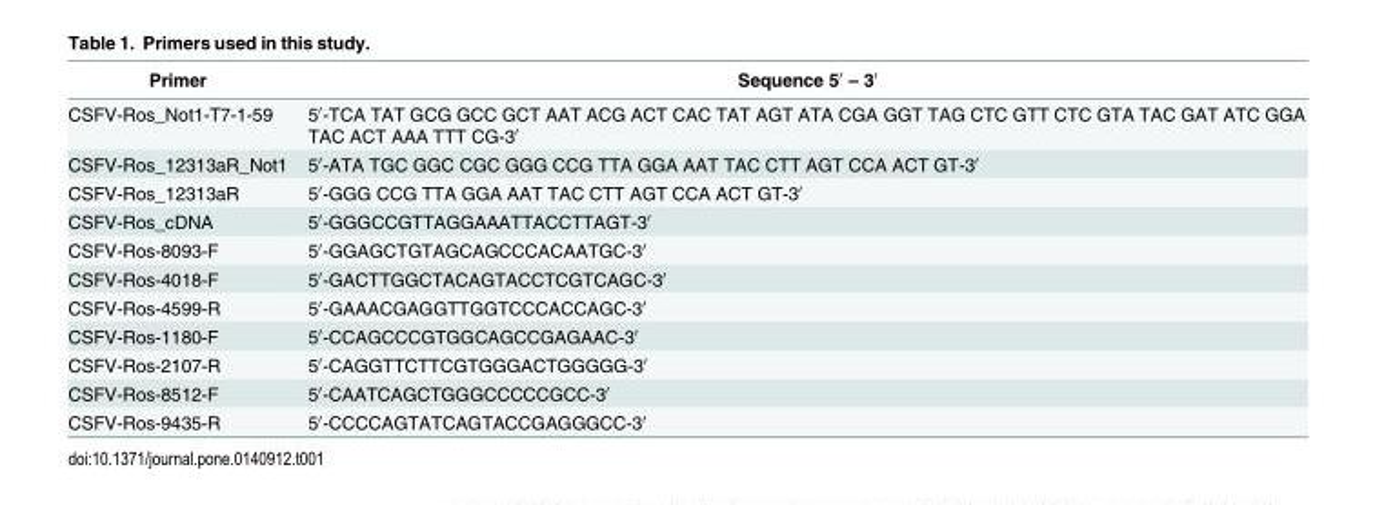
<table><thead><tr><td>Primer</td><td>Sequence 5′ – 3′</td></tr></thead><tbody><tr><td>CSFV-Ros_Not1-T7-1-59</td><td>5′-TCA TAT GCG GCC GCT AAT ACG ACT CAC TAT AGT ATA CGA GGT TAG CTC GTT CTC GTA TAC GAT ATC GGA TAC ACT AAA TTT CG-3′</td></tr><tr><td>CSFV-Ros_12313aR_Not1</td><td>5′-ATA TGC GGC CGC GGG CCG TTA GGA AAT TAC CTT AGT CCA ACT GT-3′</td></tr><tr><td>CSFV-Ros_12313aR</td><td>5′-GGG CCG TTA GGA AAT TAC CTT AGT CCA ACT GT-3′</td></tr><tr><td>CSFV-Ros_cDNA</td><td>5′-GGGCCGTTAGGAAATTACCTTAGT-3′</td></tr><tr><td>CSFV-Ros-8093-F</td><td>5′-GGAGCTGTAGCAGCCCACAATGC-3′</td></tr><tr><td>CSFV-Ros-4018-F</td><td>5′-GACTTGGCTACAGTACCTCGTCAGC-3′</td></tr><tr><td>CSFV-Ros-4599-R</td><td>5′-GAAACGAGGTTGGTCCCACCAGC-3′</td></tr><tr><td>CSFV-Ros-1180-F</td><td>5′-CCAGCCCGTGGCAGCCGAGAAC-3′</td></tr><tr><td>CSFV-Ros-2107-R</td><td>5′-CAGGTTCTTCGTGGGACTGGGGG-3′</td></tr><tr><td>CSFV-Ros-8512-F</td><td>5′-CAATCAGCTGGGCCCCCGCC-3′</td></tr><tr><td>CSFV-Ros-9435-R</td><td>5′-CCCCAGTATCAGTACCGAGGGCC-3′</td></tr></tbody></table>